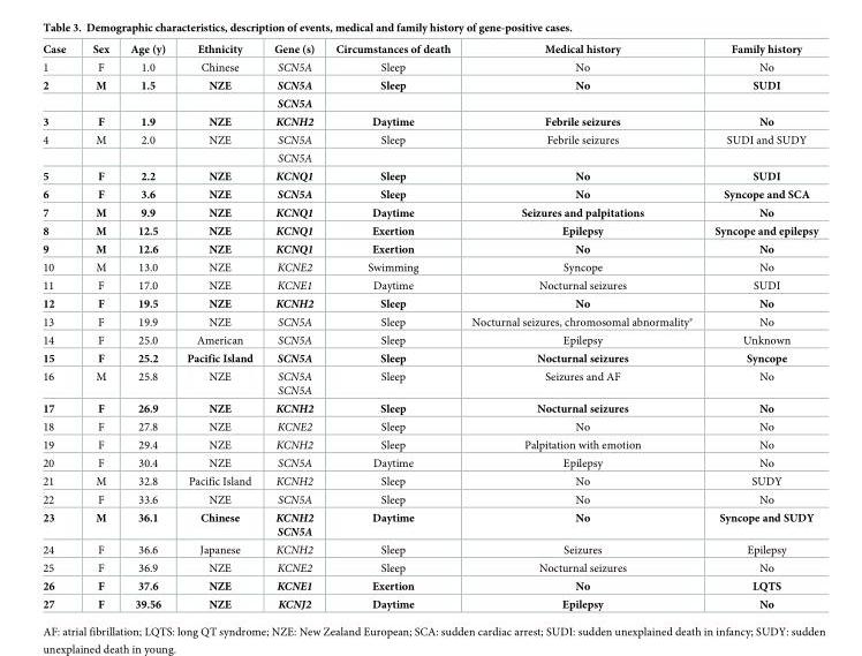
<table><thead><tr><td>Case</td><td>Sex</td><td>Age (y)</td><td>Ethnicity</td><td>Gene (s)</td><td>Circumstances of death</td><td>Medical history</td><td>Family history</td></tr></thead><tbody><tr><td>1</td><td>F</td><td>1.0</td><td>Chinese</td><td>SCN5A</td><td>Sleep</td><td>No</td><td>No</td></tr><tr><td rowspan="2">2</td><td>M</td><td>1.5</td><td>NZE</td><td>SCN5A</td><td>Sleep</td><td>No</td><td>SUDI</td></tr><tr><td></td><td></td><td></td><td>SCN5A</td><td></td><td></td><td></td></tr><tr><td>3</td><td>F</td><td>1.9</td><td>NZE</td><td>KCNH2</td><td>Daytime</td><td>Febrile seizures</td><td>No</td></tr><tr><td rowspan="2">4</td><td>M</td><td>2.0</td><td>NZE</td><td>SCN5A</td><td>Sleep</td><td>Febrile seizures</td><td>SUDI and SUDY</td></tr><tr><td></td><td></td><td></td><td>SCN5A</td><td></td><td></td><td></td></tr><tr><td>5</td><td>F</td><td>2.2</td><td>NZE</td><td>KCNQ1</td><td>Sleep</td><td>No</td><td>SUDI</td></tr><tr><td>6</td><td>F</td><td>3.6</td><td>NZE</td><td>SCN5A</td><td>Sleep</td><td>No</td><td>Syncope and SCA</td></tr><tr><td>7</td><td>M</td><td>9.9</td><td>NZE</td><td>KCNQ1</td><td>Daytime</td><td>Seizures and palpitations</td><td>No</td></tr><tr><td>8</td><td>M</td><td>12.5</td><td>NZE</td><td>KCNQ1</td><td>Exertion</td><td>Epilepsy</td><td>Syncope and epilepsy</td></tr><tr><td>9</td><td>M</td><td>12.6</td><td>NZE</td><td>KCNQ1</td><td>Exertion</td><td>No</td><td>No</td></tr><tr><td>10</td><td>M</td><td>13.0</td><td>NZE</td><td>KCNE2</td><td>Swimming</td><td>Syncope</td><td>No</td></tr><tr><td>11</td><td>F</td><td>17.0</td><td>NZE</td><td>KCNE1</td><td>Daytime</td><td>Nocturnal seizures</td><td>SUDI</td></tr><tr><td>12</td><td>F</td><td>19.5</td><td>NZE</td><td>KCNH2</td><td>Sleep</td><td>No</td><td>No</td></tr><tr><td>13</td><td>F</td><td>19.9</td><td>NZE</td><td>SCN5A</td><td>Sleep</td><td>Nocturnal seizures, chromosomal abnormality*</td><td>No</td></tr><tr><td>14</td><td>F</td><td>25.0</td><td>American</td><td>SCN5A</td><td>Sleep</td><td>Epilepsy</td><td>Unknown</td></tr><tr><td>15</td><td>F</td><td>25.2</td><td>Pacific Island</td><td>SCN5A</td><td>Sleep</td><td>Nocturnal seizures</td><td>Syncope</td></tr><tr><td>16</td><td>M</td><td>25.8</td><td>NZE</td><td>SCN5A SCN5A</td><td>Sleep</td><td>Seizures and AF</td><td>No</td></tr><tr><td>17</td><td>F</td><td>26.9</td><td>NZE</td><td>KCNH2</td><td>Sleep</td><td>Nocturnal seizures</td><td>No</td></tr><tr><td>18</td><td>F</td><td>27.8</td><td>NZE</td><td>KCNE2</td><td>Sleep</td><td>No</td><td>No</td></tr><tr><td>19</td><td>F</td><td>29.4</td><td>NZE</td><td>KCNH2</td><td>Sleep</td><td>Palpitation with emotion</td><td>No</td></tr><tr><td>20</td><td>F</td><td>30.4</td><td>NZE</td><td>SCN5A</td><td>Daytime</td><td>Epilepsy</td><td>No</td></tr><tr><td>21</td><td>M</td><td>32.8</td><td>Pacific Island</td><td>KCNH2</td><td>Sleep</td><td>No</td><td>SUDY</td></tr><tr><td>22</td><td>F</td><td>33.6</td><td>NZE</td><td>SCN5A</td><td>Sleep</td><td>No</td><td>No</td></tr><tr><td>23</td><td>M</td><td>36.1</td><td>Chinese</td><td>KCNH2 SCN5A</td><td>Daytime</td><td>No</td><td>Syncope and SUDY</td></tr><tr><td>24</td><td>F</td><td>36.6</td><td>Japanese</td><td>KCNH2</td><td>Sleep</td><td>Seizures</td><td>Epilepsy</td></tr><tr><td>25</td><td>F</td><td>36.9</td><td>NZE</td><td>KCNE2</td><td>Sleep</td><td>Nocturnal seizures</td><td>No</td></tr><tr><td>26</td><td>F</td><td>37.6</td><td>NZE</td><td>KCNE1</td><td>Exertion</td><td>No</td><td>LQTS</td></tr><tr><td>27</td><td>F</td><td>39.56</td><td>NZE</td><td>KCNJ2</td><td>Daytime</td><td>Epilepsy</td><td>No</td></tr></tbody></table>